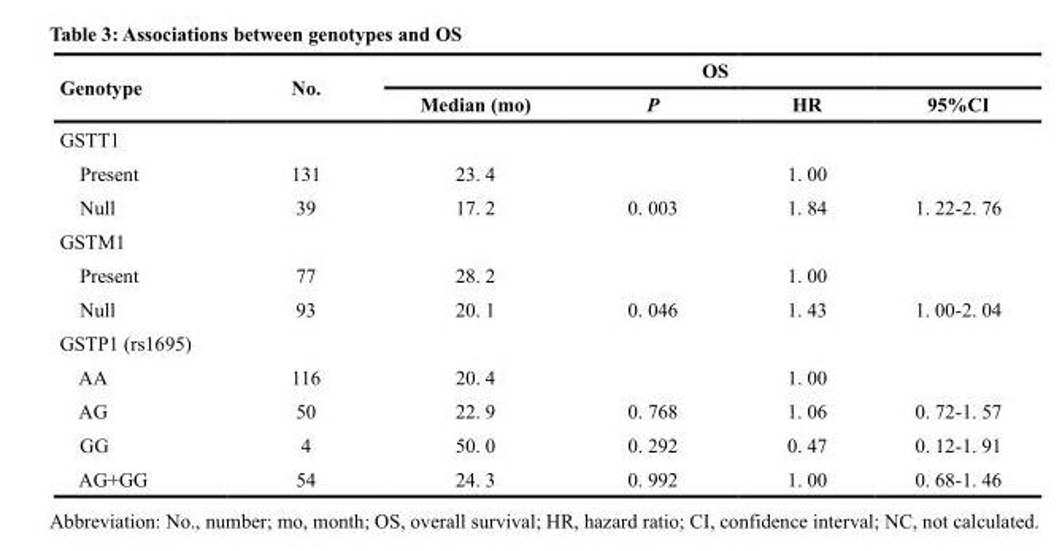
<table><thead><tr><td rowspan="2">Genotype</td><td rowspan="2">No.</td><td colspan="4">OS</td></tr><tr><td>Median (mo)</td><td>P</td><td>HR</td><td>95%CI</td></tr></thead><tbody><tr><td colspan="6">GSTT1</td></tr><tr><td>Present</td><td>131</td><td>23. 4</td><td></td><td>1. 00</td><td></td></tr><tr><td>Null</td><td>39</td><td>17. 2</td><td>0. 003</td><td>1. 84</td><td>1. 22-2. 76</td></tr><tr><td colspan="6">GSTM1</td></tr><tr><td>Present</td><td>77</td><td>28. 2</td><td></td><td>1. 00</td><td></td></tr><tr><td>Null</td><td>93</td><td>20. 1</td><td>0. 046</td><td>1. 43</td><td>1. 00-2. 04</td></tr><tr><td colspan="6">GSTP1 (rs1695)</td></tr><tr><td>AA</td><td>116</td><td>20. 4</td><td></td><td>1. 00</td><td></td></tr><tr><td>AG</td><td>50</td><td>22. 9</td><td>0. 768</td><td>1. 06</td><td>0. 72-1. 57</td></tr><tr><td>GG</td><td>4</td><td>50. 0</td><td>0. 292</td><td>0. 47</td><td>0. 12-1. 91</td></tr><tr><td>AG+GG</td><td>54</td><td>24. 3</td><td>0. 992</td><td>1. 00</td><td>0. 68-1. 46</td></tr></tbody></table>